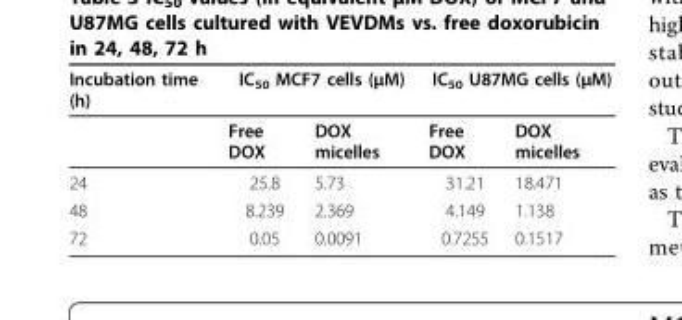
<table><thead><tr><td rowspan="2">Incubation time (h)</td><td colspan="2">IC<sub>50</sub> MCF7 cells (μM)</td><td colspan="2">IC<sub>50</sub> U87MG cells (μM)</td></tr><tr><td>Free DOX</td><td>DOX micelles</td><td>Free DOX</td><td>DOX micelles</td></tr></thead><tbody><tr><td>24</td><td>25.8</td><td>5.73</td><td>31.21</td><td>18.471</td></tr><tr><td>48</td><td>8.239</td><td>2.369</td><td>4.149</td><td>1.138</td></tr><tr><td>72</td><td>0.05</td><td>0.0091</td><td>0.7255</td><td>0.1517</td></tr></tbody></table>